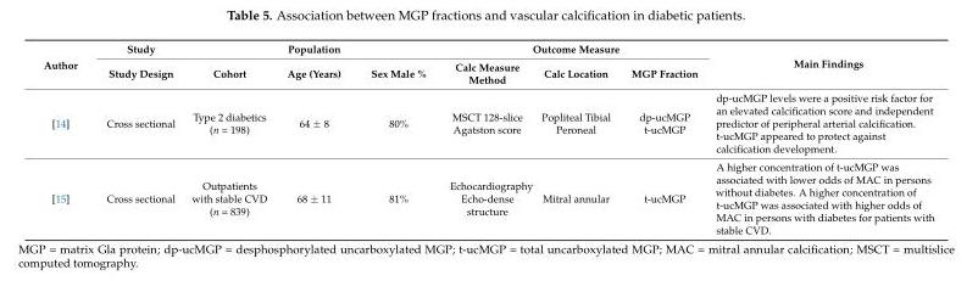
<table><thead><tr><td rowspan="2">Author</td><td rowspan="2">Study Study Design</td><td colspan="3">Population</td><td colspan="3">Outcome Measure</td><td rowspan="2">Main Findings</td></tr><tr><td>Cohort</td><td>Age (Years)</td><td>Sex Male %</td><td>Calc Measure Method</td><td>Calc Location</td><td>MGP Fraction</td></tr></thead><tbody><tr><td>[14]</td><td>Cross sectional</td><td>Type 2 diabetics (n = 198)</td><td>64 ± 8</td><td>80%</td><td>MSCT 128-slice Agatston score</td><td>Popliteal Tibial Peroneal</td><td>dp-ucMGP t-ucMGP</td><td>dp-ucMGP levels were a positive risk factor for an elevated calcification score and independent predictor of peripheral arterial calcification. t-ucMGP appeared to protect against calcification development.</td></tr><tr><td>[15]</td><td>Cross sectional</td><td>Outpatients with stable CVD (n = 839)</td><td>68 ± 11</td><td>81%</td><td>Echocardiography Echo-dense structure</td><td>Mitral annular</td><td>t-ucMGP</td><td>A higher concentration of t-ucMGP was associated with lower odds of MAC in persons without diabetes. A higher concentration of t-ucMGP was associated with higher odds of MAC in persons with diabetes for patients with stable CVD.</td></tr></tbody></table>